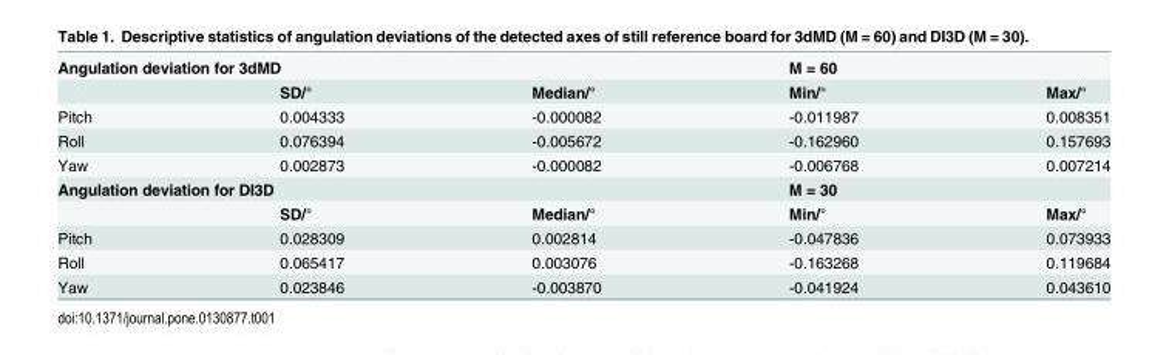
<table><tbody><tr><td colspan="3">Angulation deviation for 3dMD</td><td>M = 60</td><td></td></tr><tr><td></td><td>SD/°</td><td>Median/°</td><td>Min/°</td><td>Max/°</td></tr><tr><td>Pitch</td><td>0.004333</td><td>-0.000082</td><td>-0.011987</td><td>0.008351</td></tr><tr><td>Roll</td><td>0.076394</td><td>-0.005672</td><td>-0.162960</td><td>0.157693</td></tr><tr><td>Yaw</td><td>0.002873</td><td>-0.000082</td><td>-0.006768</td><td>0.007214</td></tr><tr><td colspan="3">Angulation deviation for DI3D</td><td>M = 30</td><td></td></tr><tr><td></td><td>SD/°</td><td>Median/°</td><td>Min/°</td><td>Max/°</td></tr><tr><td>Pitch</td><td>0.028309</td><td>0.002814</td><td>-0.047836</td><td>0.073933</td></tr><tr><td>Roll</td><td>0.065417</td><td>0.003076</td><td>-0.163268</td><td>0.119684</td></tr><tr><td>Yaw</td><td>0.023846</td><td>-0.003870</td><td>-0.041924</td><td>0.043610</td></tr></tbody></table>